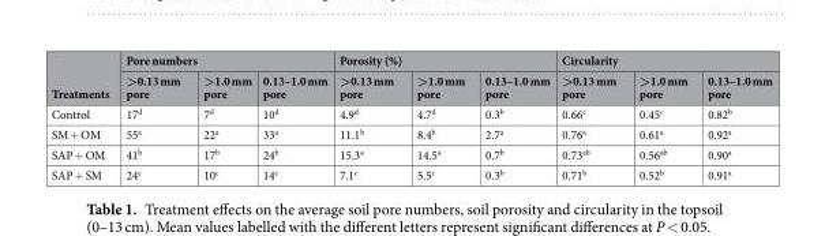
<table><thead><tr><td rowspan="2">Treatments</td><td colspan="3">Pore numbers</td><td colspan="3">Porosity (%)</td><td colspan="3">Circularity</td></tr><tr><td>&gt;0.13 mm pore</td><td>&gt;1.0 mm pore</td><td>0.13–1.0 mm pore</td><td>&gt;0.13 mm pore</td><td>&gt;1.0 mm pore</td><td>0.13–1.0 mm pore</td><td>&gt;0.13 mm pore</td><td>&gt;1.0 mm pore</td><td>0.13–1.0 mm pore</td></tr></thead><tbody><tr><td>Control</td><td>17<sup>d</sup></td><td>7<sup>d</sup></td><td>10<sup>d</sup></td><td>4.9<sup>d</sup></td><td>4.7<sup>d</sup></td><td>0.3<sup>b</sup></td><td>0.66<sup>c</sup></td><td>0.45<sup>c</sup></td><td>0.82<sup>b</sup></td></tr><tr><td>SM + OM</td><td>55<sup>a</sup></td><td>22<sup>a</sup></td><td>33<sup>a</sup></td><td>11.1<sup>b</sup></td><td>8.4<sup>b</sup></td><td>2.7<sup>a</sup></td><td>0.76<sup>a</sup></td><td>0.61<sup>a</sup></td><td>0.92<sup>a</sup></td></tr><tr><td>SAP + OM</td><td>41<sup>b</sup></td><td>17<sup>b</sup></td><td>24<sup>b</sup></td><td>15.3<sup>a</sup></td><td>14.5<sup>a</sup></td><td>0.7<sup>b</sup></td><td>0.73<sup>ab</sup></td><td>0.56<sup>ab</sup></td><td>0.90<sup>a</sup></td></tr><tr><td>SAP + SM</td><td>24<sup>c</sup></td><td>10<sup>c</sup></td><td>14<sup>c</sup></td><td>7.1<sup>c</sup></td><td>5.5<sup>c</sup></td><td>0.3<sup>b</sup></td><td>0.71<sup>b</sup></td><td>0.52<sup>b</sup></td><td>0.91<sup>a</sup></td></tr></tbody></table>